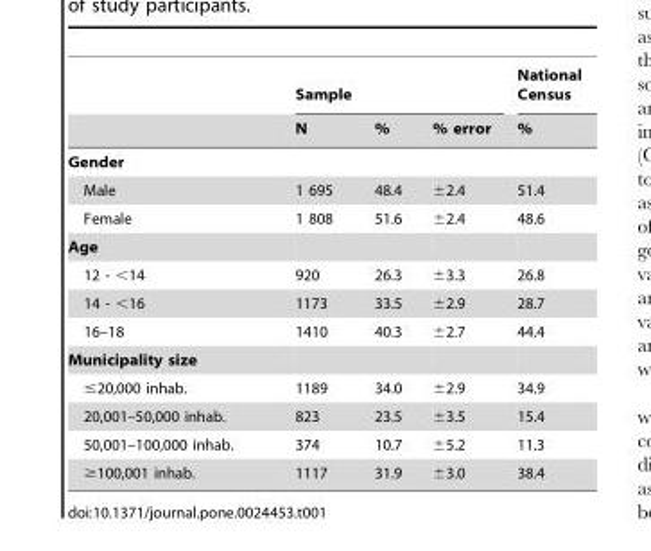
<table><thead><tr><td rowspan="2"></td><td colspan="3">Sample</td><td rowspan="2">National Census %</td></tr><tr><td>N</td><td>%</td><td>% error</td></tr></thead><tbody><tr><td colspan="5">Gender</td></tr><tr><td>Male</td><td>1 695</td><td>48.4</td><td>±2.4</td><td>51.4</td></tr><tr><td>Female</td><td>1 808</td><td>51.6</td><td>±2.4</td><td>48.6</td></tr><tr><td colspan="5">Age</td></tr><tr><td>12 - &lt;14</td><td>920</td><td>26.3</td><td>±3.3</td><td>26.8</td></tr><tr><td>14 - &lt;16</td><td>1173</td><td>33.5</td><td>±2.9</td><td>28.7</td></tr><tr><td>16–18</td><td>1410</td><td>40.3</td><td>±2.7</td><td>44.4</td></tr><tr><td colspan="5">Municipality size</td></tr><tr><td>≤20,000 inhab.</td><td>1189</td><td>34.0</td><td>±2.9</td><td>34.9</td></tr><tr><td>20,001–50,000 inhab.</td><td>823</td><td>23.5</td><td>±3.5</td><td>15.4</td></tr><tr><td>50,001–100,000 inhab.</td><td>374</td><td>10.7</td><td>±5.2</td><td>11.3</td></tr><tr><td>≥100,001 inhab.</td><td>1117</td><td>31.9</td><td>±3.0</td><td>38.4</td></tr></tbody></table>